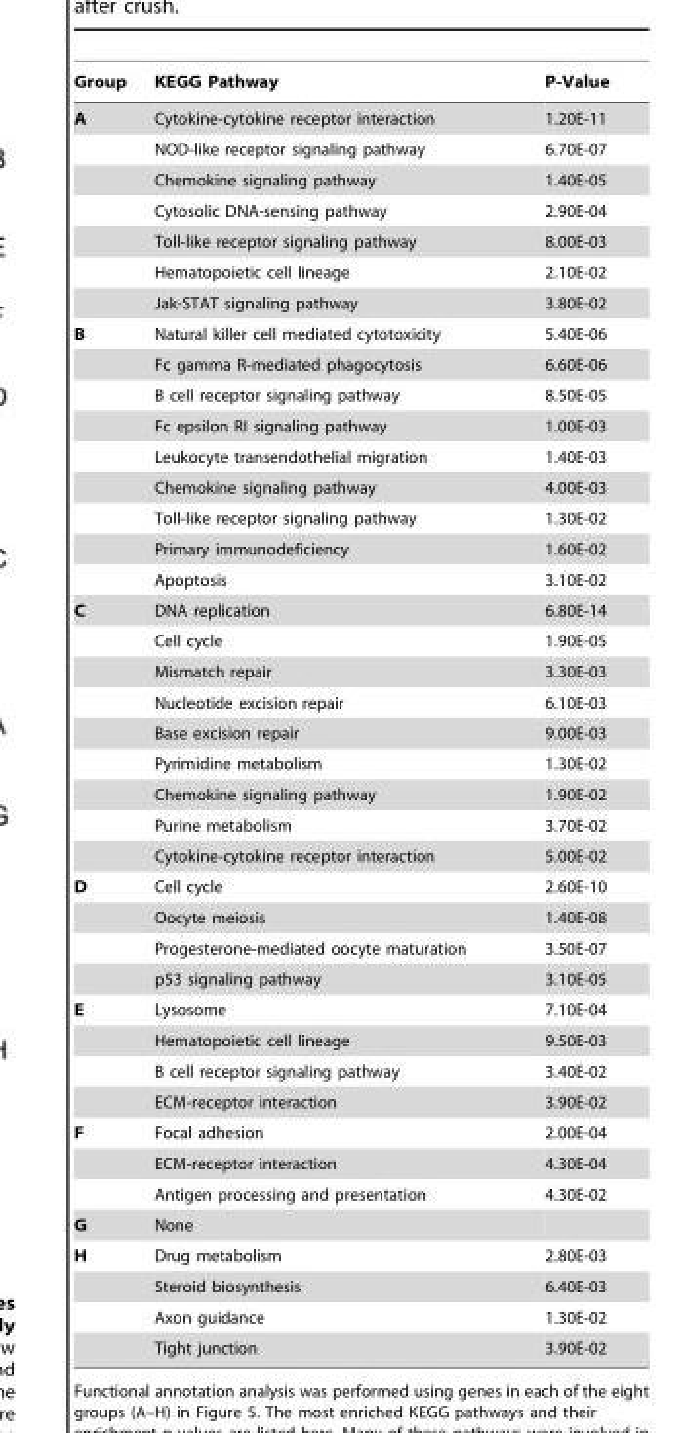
<table><thead><tr><td>Group</td><td>KEGG Pathway</td><td>P-Value</td></tr></thead><tbody><tr><td rowspan="7">A</td><td>Cytokine-cytokine receptor interaction</td><td>1.20E-11</td></tr><tr><td>NOD-like receptor signaling pathway</td><td>6.70E-07</td></tr><tr><td>Chemokine signaling pathway</td><td>1.40E-05</td></tr><tr><td>Cytosolic DNA-sensing pathway</td><td>2.90E-04</td></tr><tr><td>Toll-like receptor signaling pathway</td><td>8.00E-03</td></tr><tr><td>Hematopoietic cell lineage</td><td>2.10E-02</td></tr><tr><td>Jak-STAT signaling pathway</td><td>3.80E-02</td></tr><tr><td rowspan="9">B</td><td>Natural killer cell mediated cytotoxicity</td><td>5.40E-06</td></tr><tr><td>Fc gamma R-mediated phagocytosis</td><td>6.60E-06</td></tr><tr><td>B cell receptor signaling pathway</td><td>8.50E-05</td></tr><tr><td>Fc epsilon RI signaling pathway</td><td>1.00E-03</td></tr><tr><td>Leukocyte transendothelial migration</td><td>1.40E-03</td></tr><tr><td>Chemokine signaling pathway</td><td>4.00E-03</td></tr><tr><td>Toll-like receptor signaling pathway</td><td>1.30E-02</td></tr><tr><td>Primary immunodeficiency</td><td>1.60E-02</td></tr><tr><td>Apoptosis</td><td>3.10E-02</td></tr><tr><td rowspan="9">C</td><td>DNA replication</td><td>6.80E-14</td></tr><tr><td>Cell cycle</td><td>1.90E-05</td></tr><tr><td>Mismatch repair</td><td>3.30E-03</td></tr><tr><td>Nucleotide excision repair</td><td>6.10E-03</td></tr><tr><td>Base excision repair</td><td>9.00E-03</td></tr><tr><td>Pyrimidine metabolism</td><td>1.30E-02</td></tr><tr><td>Chemokine signaling pathway</td><td>1.90E-02</td></tr><tr><td>Purine metabolism</td><td>3.70E-02</td></tr><tr><td>Cytokine-cytokine receptor interaction</td><td>5.00E-02</td></tr><tr><td rowspan="4">D</td><td>Cell cycle</td><td>2.60E-10</td></tr><tr><td>Oocyte meiosis</td><td>1.40E-08</td></tr><tr><td>Progesterone-mediated oocyte maturation</td><td>3.50E-07</td></tr><tr><td>p53 signaling pathway</td><td>3.10E-05</td></tr><tr><td rowspan="4">E</td><td>Lysosome</td><td>7.10E-04</td></tr><tr><td>Hematopoietic cell lineage</td><td>9.50E-03</td></tr><tr><td>B cell receptor signaling pathway</td><td>3.40E-02</td></tr><tr><td>ECM-receptor interaction</td><td>3.90E-02</td></tr><tr><td rowspan="3">F</td><td>Focal adhesion</td><td>2.00E-04</td></tr><tr><td>ECM-receptor interaction</td><td>4.30E-04</td></tr><tr><td>Antigen processing and presentation</td><td>4.30E-02</td></tr><tr><td>G</td><td>None</td><td></td></tr><tr><td rowspan="4">H</td><td>Drug metabolism</td><td>2.80E-03</td></tr><tr><td>Steroid biosynthesis</td><td>6.40E-03</td></tr><tr><td>Axon guidance</td><td>1.30E-02</td></tr><tr><td>Tight junction</td><td>3.90E-02</td></tr></tbody></table>